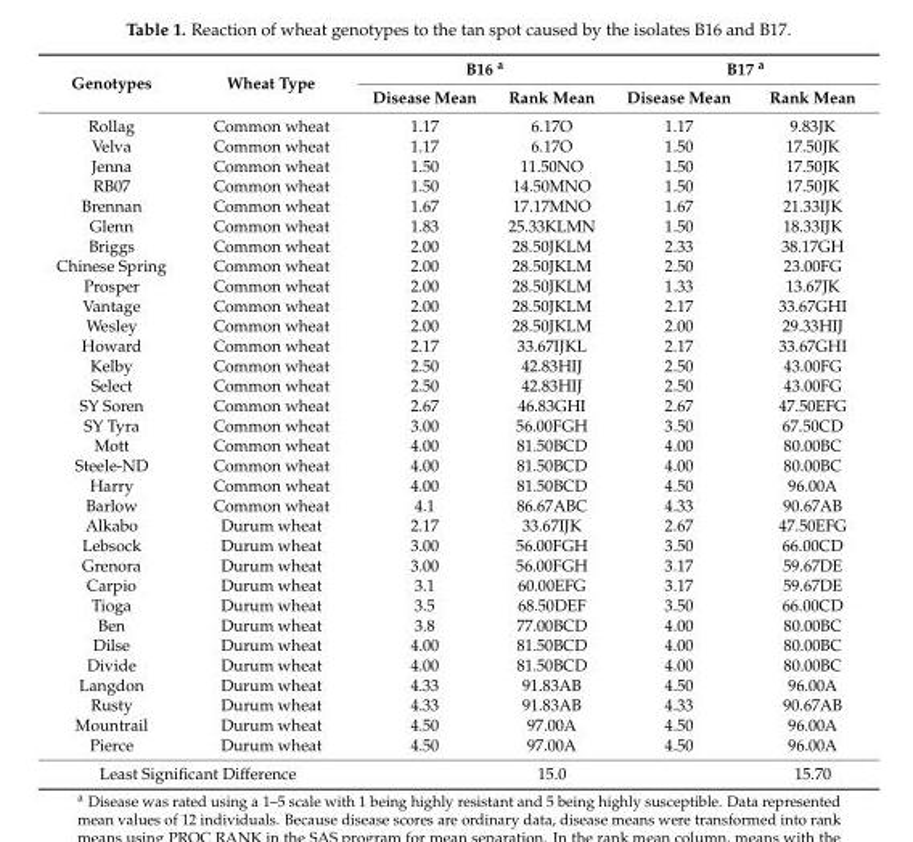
<table><thead><tr><td rowspan="2">Genotypes</td><td rowspan="2">Wheat Type</td><td colspan="2">B16 <sup>a</sup></td><td colspan="2">B17 <sup>a</sup></td></tr><tr><td>Disease Mean</td><td>Rank Mean</td><td>Disease Mean</td><td>Rank Mean</td></tr></thead><tbody><tr><td>Rollag</td><td>Common wheat</td><td>1.17</td><td>6.17O</td><td>1.17</td><td>9.83JK</td></tr><tr><td>Velva</td><td>Common wheat</td><td>1.17</td><td>6.17O</td><td>1.50</td><td>17.50JK</td></tr><tr><td>Jenna</td><td>Common wheat</td><td>1.50</td><td>11.50NO</td><td>1.50</td><td>17.50JK</td></tr><tr><td>RB07</td><td>Common wheat</td><td>1.50</td><td>14.50MNO</td><td>1.50</td><td>17.50JK</td></tr><tr><td>Brennan</td><td>Common wheat</td><td>1.67</td><td>17.17MNO</td><td>1.67</td><td>21.33IJK</td></tr><tr><td>Glenn</td><td>Common wheat</td><td>1.83</td><td>25.33KLMN</td><td>1.50</td><td>18.33IJK</td></tr><tr><td>Briggs</td><td>Common wheat</td><td>2.00</td><td>28.50JKLM</td><td>2.33</td><td>38.17GH</td></tr><tr><td>Chinese Spring</td><td>Common wheat</td><td>2.00</td><td>28.50JKLM</td><td>2.50</td><td>23.00FG</td></tr><tr><td>Prosper</td><td>Common wheat</td><td>2.00</td><td>28.50JKLM</td><td>1.33</td><td>13.67JK</td></tr><tr><td>Vantage</td><td>Common wheat</td><td>2.00</td><td>28.50JKLM</td><td>2.17</td><td>33.67GHI</td></tr><tr><td>Wesley</td><td>Common wheat</td><td>2.00</td><td>28.50JKLM</td><td>2.00</td><td>29.33HIJ</td></tr><tr><td>Howard</td><td>Common wheat</td><td>2.17</td><td>33.67IJKL</td><td>2.17</td><td>33.67GHI</td></tr><tr><td>Kelby</td><td>Common wheat</td><td>2.50</td><td>42.83HIJ</td><td>2.50</td><td>43.00FG</td></tr><tr><td>Select</td><td>Common wheat</td><td>2.50</td><td>42.83HIJ</td><td>2.50</td><td>43.00FG</td></tr><tr><td>SY Soren</td><td>Common wheat</td><td>2.67</td><td>46.83GHI</td><td>2.67</td><td>47.50EFG</td></tr><tr><td>SY Tyra</td><td>Common wheat</td><td>3.00</td><td>56.00FGH</td><td>3.50</td><td>67.50CD</td></tr><tr><td>Mott</td><td>Common wheat</td><td>4.00</td><td>81.50BCD</td><td>4.00</td><td>80.00BC</td></tr><tr><td>Steele-ND</td><td>Common wheat</td><td>4.00</td><td>81.50BCD</td><td>4.00</td><td>80.00BC</td></tr><tr><td>Harry</td><td>Common wheat</td><td>4.00</td><td>81.50BCD</td><td>4.50</td><td>96.00A</td></tr><tr><td>Barlow</td><td>Common wheat</td><td>4.1</td><td>86.67ABC</td><td>4.33</td><td>90.67AB</td></tr><tr><td>Alkabo</td><td>Durum wheat</td><td>2.17</td><td>33.67IJK</td><td>2.67</td><td>47.50EFG</td></tr><tr><td>Lebsock</td><td>Durum wheat</td><td>3.00</td><td>56.00FGH</td><td>3.50</td><td>66.00CD</td></tr><tr><td>Grenora</td><td>Durum wheat</td><td>3.00</td><td>56.00FGH</td><td>3.17</td><td>59.67DE</td></tr><tr><td>Carpio</td><td>Durum wheat</td><td>3.1</td><td>60.00EFG</td><td>3.17</td><td>59.67DE</td></tr><tr><td>Tioga</td><td>Durum wheat</td><td>3.5</td><td>68.50DEF</td><td>3.50</td><td>66.00CD</td></tr><tr><td>Ben</td><td>Durum wheat</td><td>3.8</td><td>77.00BCD</td><td>4.00</td><td>80.00BC</td></tr><tr><td>Dilse</td><td>Durum wheat</td><td>4.00</td><td>81.50BCD</td><td>4.00</td><td>80.00BC</td></tr><tr><td>Divide</td><td>Durum wheat</td><td>4.00</td><td>81.50BCD</td><td>4.00</td><td>80.00BC</td></tr><tr><td>Langdon</td><td>Durum wheat</td><td>4.33</td><td>91.83AB</td><td>4.50</td><td>96.00A</td></tr><tr><td>Rusty</td><td>Durum wheat</td><td>4.33</td><td>91.83AB</td><td>4.33</td><td>90.67AB</td></tr><tr><td>Mountrail</td><td>Durum wheat</td><td>4.50</td><td>97.00A</td><td>4.50</td><td>96.00A</td></tr><tr><td>Pierce</td><td>Durum wheat</td><td>4.50</td><td>97.00A</td><td>4.50</td><td>96.00A</td></tr><tr><td colspan="2">Least Significant Difference</td><td></td><td>15.0</td><td></td><td>15.70</td></tr></tbody></table>